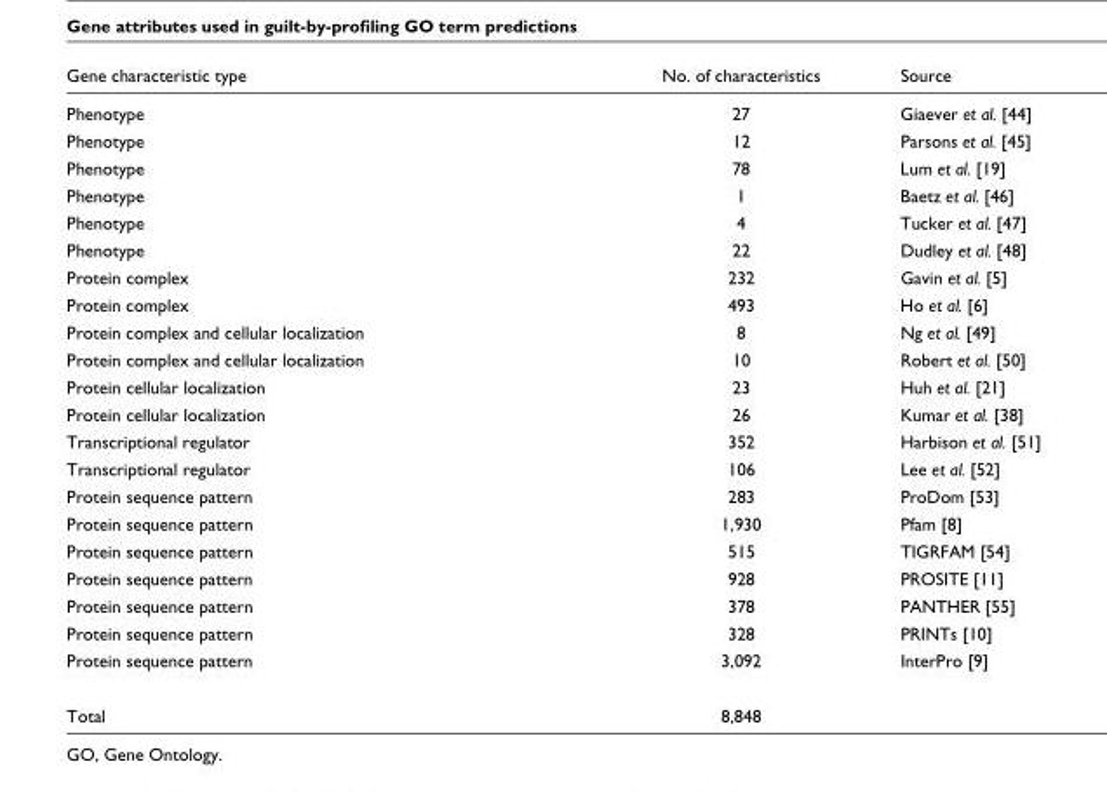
<table><thead><tr><td>Gene characteristic type</td><td>No. of characteristics</td><td>Source</td></tr></thead><tbody><tr><td>Phenotype</td><td>27</td><td>Giaever et al. [44]</td></tr><tr><td>Phenotype</td><td>12</td><td>Parsons et al. [45]</td></tr><tr><td>Phenotype</td><td>78</td><td>Lum et al. [19]</td></tr><tr><td>Phenotype</td><td>1</td><td>Baetz et al. [46]</td></tr><tr><td>Phenotype</td><td>4</td><td>Tucker et al. [47]</td></tr><tr><td>Phenotype</td><td>22</td><td>Dudley et al. [48]</td></tr><tr><td>Protein complex</td><td>232</td><td>Gavin et al. [5]</td></tr><tr><td>Protein complex</td><td>493</td><td>Ho et al. [6]</td></tr><tr><td>Protein complex and cellular localization</td><td>8</td><td>Ng et al. [49]</td></tr><tr><td>Protein complex and cellular localization</td><td>10</td><td>Robert et al. [50]</td></tr><tr><td>Protein cellular localization</td><td>23</td><td>Huh et al. [21]</td></tr><tr><td>Protein cellular localization</td><td>26</td><td>Kumar et al. [38]</td></tr><tr><td>Transcriptional regulator</td><td>352</td><td>Harbison et al. [51]</td></tr><tr><td>Transcriptional regulator</td><td>106</td><td>Lee et al. [52]</td></tr><tr><td>Protein sequence pattern</td><td>283</td><td>ProDom [53]</td></tr><tr><td>Protein sequence pattern</td><td>1,930</td><td>Pfam [8]</td></tr><tr><td>Protein sequence pattern</td><td>515</td><td>TIGRFAM [54]</td></tr><tr><td>Protein sequence pattern</td><td>928</td><td>PROSITE [11]</td></tr><tr><td>Protein sequence pattern</td><td>378</td><td>PANTHER [55]</td></tr><tr><td>Protein sequence pattern</td><td>328</td><td>PRINTs [10]</td></tr><tr><td>Protein sequence pattern</td><td>3,092</td><td>InterPro [9]</td></tr><tr><td>Total</td><td>8,848</td><td></td></tr></tbody></table>